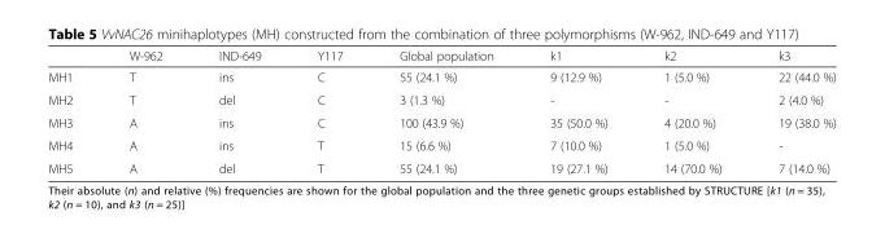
<table><thead><tr><td></td><td>W-962</td><td>IND-649</td><td>Y117</td><td>Global population</td><td>k1</td><td>k2</td><td>k3</td></tr></thead><tbody><tr><td>MH1</td><td>T</td><td>ins</td><td>C</td><td>55 (24.1 %)</td><td>9 (12.9 %)</td><td>1 (5.0 %)</td><td>22 (44.0 %)</td></tr><tr><td>MH2</td><td>T</td><td>del</td><td>C</td><td>3 (1.3 %)</td><td>-</td><td>-</td><td>2 (4.0 %)</td></tr><tr><td>MH3</td><td>A</td><td>ins</td><td>C</td><td>100 (43.9 %)</td><td>35 (50.0 %)</td><td>4 (20.0 %)</td><td>19 (38.0 %)</td></tr><tr><td>MH4</td><td>A</td><td>ins</td><td>T</td><td>15 (6.6 %)</td><td>7 (10.0 %)</td><td>1 (5.0 %)</td><td>-</td></tr><tr><td>MH5</td><td>A</td><td>del</td><td>T</td><td>55 (24.1 %)</td><td>19 (27.1 %)</td><td>14 (70.0 %)</td><td>7 (14.0 %)</td></tr></tbody></table>